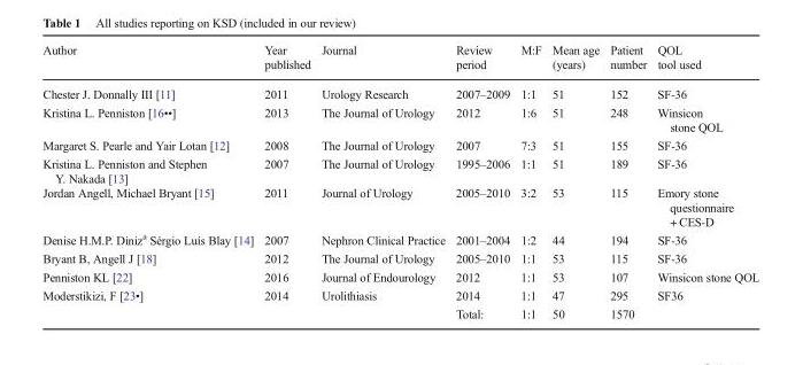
<table><thead><tr><td>Author</td><td>Year published</td><td>Journal</td><td>Review period</td><td>M:F</td><td>Mean age (years)</td><td>Patient number</td><td>QOL tool used</td></tr></thead><tbody><tr><td>Chester J. Donnally III [11]</td><td>2011</td><td>Urology Research</td><td>2007–2009</td><td>1:1</td><td>51</td><td>152</td><td>SF-36</td></tr><tr><td>Kristina L. Penniston [16••]</td><td>2013</td><td>The Journal of Urology</td><td>2012</td><td>1:6</td><td>51</td><td>248</td><td>Winsicon stone QOL</td></tr><tr><td>Margaret S. Pearle and Yair Lotan [12]</td><td>2008</td><td>The Journal of Urology</td><td>2007</td><td>7:3</td><td>51</td><td>155</td><td>SF-36</td></tr><tr><td>Kristina L. Penniston and Stephen Y. Nakada [13]</td><td>2007</td><td>The Journal of Urology</td><td>1995–2006</td><td>1:1</td><td>51</td><td>189</td><td>SF-36</td></tr><tr><td>Jordan Angell, Michael Bryant [15]</td><td>2011</td><td>Journal of Urology</td><td>2005–2010</td><td>3:2</td><td>53</td><td>115</td><td>Emory stone questionnaire + CES-D</td></tr><tr><td>Denise H.M.P. Diniz<sup>a</sup> Sérgio Luís Blay [14]</td><td>2007</td><td>Nephron Clinical Practice</td><td>2001–2004</td><td>1:2</td><td>44</td><td>194</td><td>SF-36</td></tr><tr><td>Bryant B, Angell J [18]</td><td>2012</td><td>The Journal of Urology</td><td>2005–2010</td><td>1:1</td><td>53</td><td>115</td><td>SF-36</td></tr><tr><td>Penniston KL [22]</td><td>2016</td><td>Journal of Endourology</td><td>2012</td><td>1:1</td><td>53</td><td>107</td><td>Winsicon stone QOL</td></tr><tr><td rowspan="2">Moderstikizi, F [23•]</td><td>2014</td><td>Urolithiasis</td><td>2014</td><td>1:1</td><td>47</td><td>295</td><td>SF36</td></tr><tr><td></td><td></td><td>Total:</td><td>1:1</td><td>50</td><td>1570</td><td></td></tr></tbody></table>